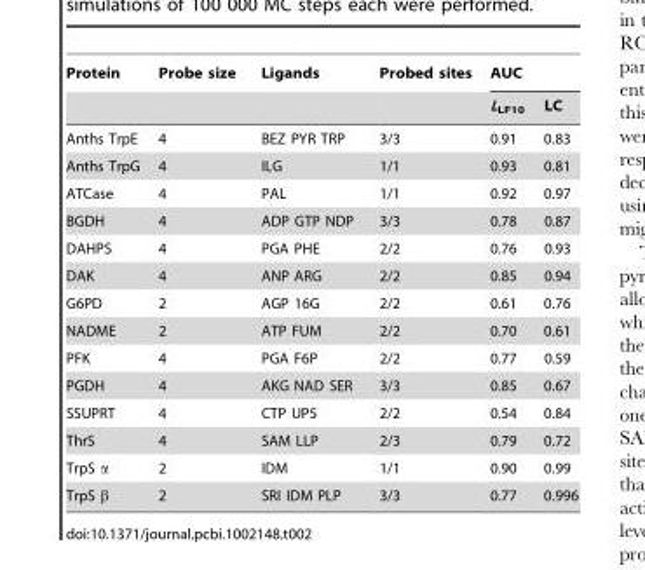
<table><thead><tr><td rowspan="2">Protein</td><td rowspan="2">Probe size</td><td rowspan="2">Ligands</td><td rowspan="2">Probed sites</td><td colspan="2">AUC</td></tr><tr><td>L<sub>LF10</sub></td><td>LC</td></tr></thead><tbody><tr><td>Anths TrpE</td><td>4</td><td>BEZ PYR TRP</td><td>3/3</td><td>0.91</td><td>0.83</td></tr><tr><td>Anths TrpG</td><td>4</td><td>ILG</td><td>1/1</td><td>0.93</td><td>0.81</td></tr><tr><td>ATCase</td><td>4</td><td>PAL</td><td>1/1</td><td>0.92</td><td>0.97</td></tr><tr><td>BGDH</td><td>4</td><td>ADP GTP NDP</td><td>3/3</td><td>0.78</td><td>0.87</td></tr><tr><td>DAHPS</td><td>4</td><td>PGA PHE</td><td>2/2</td><td>0.76</td><td>0.93</td></tr><tr><td>DAK</td><td>4</td><td>ANP ARG</td><td>2/2</td><td>0.85</td><td>0.94</td></tr><tr><td>G6PD</td><td>2</td><td>AGP 16G</td><td>2/2</td><td>0.61</td><td>0.76</td></tr><tr><td>NADME</td><td>2</td><td>ATP FUM</td><td>2/2</td><td>0.70</td><td>0.61</td></tr><tr><td>PFK</td><td>4</td><td>PGA F6P</td><td>2/2</td><td>0.77</td><td>0.59</td></tr><tr><td>PGDH</td><td>4</td><td>AKG NAD SER</td><td>3/3</td><td>0.85</td><td>0.67</td></tr><tr><td>SSUPRT</td><td>4</td><td>CTP UP5</td><td>2/2</td><td>0.54</td><td>0.84</td></tr><tr><td>ThrS</td><td>4</td><td>SAM LLP</td><td>2/3</td><td>0.79</td><td>0.72</td></tr><tr><td>TrpS α</td><td>2</td><td>IDM</td><td>1/1</td><td>0.90</td><td>0.99</td></tr><tr><td>TrpS β</td><td>2</td><td>SRI IDM PLP</td><td>3/3</td><td>0.77</td><td>0.996</td></tr></tbody></table>